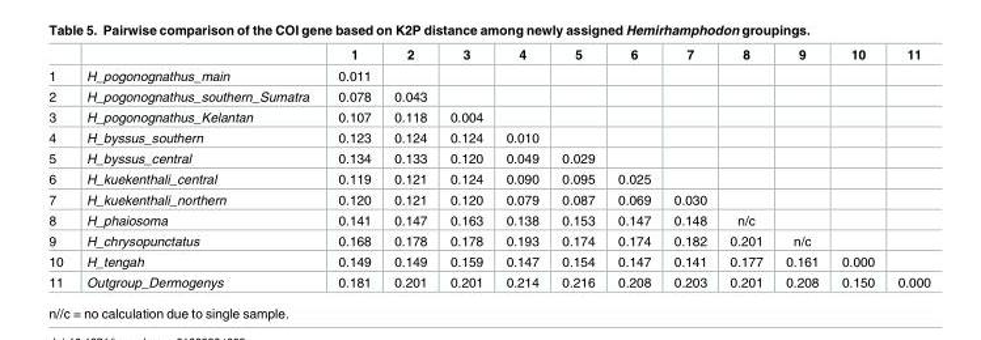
<table><thead><tr><td></td><td></td><td>1</td><td>2</td><td>3</td><td>4</td><td>5</td><td>6</td><td>7</td><td>8</td><td>9</td><td>10</td><td>11</td></tr></thead><tbody><tr><td>1</td><td>H_pogonognathus_main</td><td>0.011</td><td></td><td></td><td></td><td></td><td></td><td></td><td></td><td></td><td></td><td></td></tr><tr><td>2</td><td>H_pogonognathus_southern_Sumatra</td><td>0.078</td><td>0.043</td><td></td><td></td><td></td><td></td><td></td><td></td><td></td><td></td><td></td></tr><tr><td>3</td><td>H_pogonognathus_Kelantan</td><td>0.107</td><td>0.118</td><td>0.004</td><td></td><td></td><td></td><td></td><td></td><td></td><td></td><td></td></tr><tr><td>4</td><td>H_byssus_southern</td><td>0.123</td><td>0.124</td><td>0.124</td><td>0.010</td><td></td><td></td><td></td><td></td><td></td><td></td><td></td></tr><tr><td>5</td><td>H_byssus_central</td><td>0.134</td><td>0.133</td><td>0.120</td><td>0.049</td><td>0.029</td><td></td><td></td><td></td><td></td><td></td><td></td></tr><tr><td>6</td><td>H_kuekenthali_central</td><td>0.119</td><td>0.121</td><td>0.124</td><td>0.090</td><td>0.095</td><td>0.025</td><td></td><td></td><td></td><td></td><td></td></tr><tr><td>7</td><td>H_kuekenthali_northern</td><td>0.120</td><td>0.121</td><td>0.120</td><td>0.079</td><td>0.087</td><td>0.069</td><td>0.030</td><td></td><td></td><td></td><td></td></tr><tr><td>8</td><td>H_phaiosoma</td><td>0.141</td><td>0.147</td><td>0.163</td><td>0.138</td><td>0.153</td><td>0.147</td><td>0.148</td><td>n/c</td><td></td><td></td><td></td></tr><tr><td>9</td><td>H_chrysopunctatus</td><td>0.168</td><td>0.178</td><td>0.178</td><td>0.193</td><td>0.174</td><td>0.174</td><td>0.182</td><td>0.201</td><td>n/c</td><td></td><td></td></tr><tr><td>10</td><td>H_tengah</td><td>0.149</td><td>0.149</td><td>0.159</td><td>0.147</td><td>0.154</td><td>0.147</td><td>0.141</td><td>0.177</td><td>0.161</td><td>0.000</td><td></td></tr><tr><td>11</td><td>Outgroup_Dermogenys</td><td>0.181</td><td>0.201</td><td>0.201</td><td>0.214</td><td>0.216</td><td>0.208</td><td>0.203</td><td>0.201</td><td>0.208</td><td>0.150</td><td>0.000</td></tr></tbody></table>